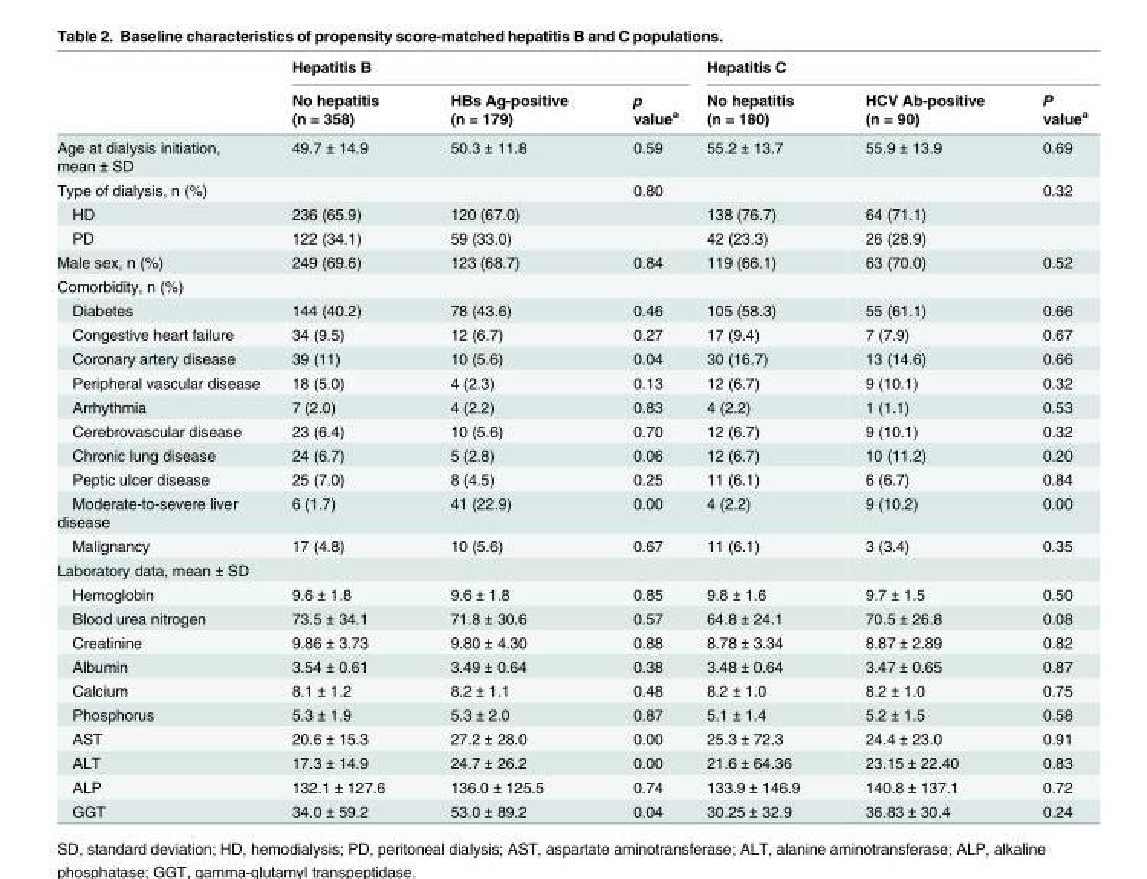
<table><thead><tr><td rowspan="2"></td><td colspan="3">Hepatitis B</td><td colspan="3">Hepatitis C</td></tr><tr><td>No hepatitis (n = 358)</td><td>HBs Ag-positive (n = 179)</td><td>p value<sup>a</sup></td><td>No hepatitis (n = 180)</td><td>HCV Ab-positive (n = 90)</td><td>P value<sup>a</sup></td></tr></thead><tbody><tr><td>Age at dialysis initiation, mean ± SD</td><td>49.7 ± 14.9</td><td>50.3 ± 11.8</td><td>0.59</td><td>55.2 ± 13.7</td><td>55.9 ± 13.9</td><td>0.69</td></tr><tr><td>Type of dialysis, n (%)</td><td></td><td></td><td>0.80</td><td></td><td></td><td>0.32</td></tr><tr><td>HD</td><td>236 (65.9)</td><td>120 (67.0)</td><td></td><td>138 (76.7)</td><td>64 (71.1)</td><td></td></tr><tr><td>PD</td><td>122 (34.1)</td><td>59 (33.0)</td><td></td><td>42 (23.3)</td><td>26 (28.9)</td><td></td></tr><tr><td>Male sex, n (%)</td><td>249 (69.6)</td><td>123 (68.7)</td><td>0.84</td><td>119 (66.1)</td><td>63 (70.0)</td><td>0.52</td></tr><tr><td colspan="7">Comorbidity, n (%)</td></tr><tr><td>Diabetes</td><td>144 (40.2)</td><td>78 (43.6)</td><td>0.46</td><td>105 (58.3)</td><td>55 (61.1)</td><td>0.66</td></tr><tr><td>Congestive heart failure</td><td>34 (9.5)</td><td>12 (6.7)</td><td>0.27</td><td>17 (9.4)</td><td>7 (7.9)</td><td>0.67</td></tr><tr><td>Coronary artery disease</td><td>39 (11)</td><td>10 (5.6)</td><td>0.04</td><td>30 (16.7)</td><td>13 (14.6)</td><td>0.66</td></tr><tr><td>Peripheral vascular disease</td><td>18 (5.0)</td><td>4 (2.3)</td><td>0.13</td><td>12 (6.7)</td><td>9 (10.1)</td><td>0.32</td></tr><tr><td>Arrhythmia</td><td>7 (2.0)</td><td>4 (2.2)</td><td>0.83</td><td>4 (2.2)</td><td>1 (1.1)</td><td>0.53</td></tr><tr><td>Cerebrovascular disease</td><td>23 (6.4)</td><td>10 (5.6)</td><td>0.70</td><td>12 (6.7)</td><td>9 (10.1)</td><td>0.32</td></tr><tr><td>Chronic lung disease</td><td>24 (6.7)</td><td>5 (2.8)</td><td>0.06</td><td>12 (6.7)</td><td>10 (11.2)</td><td>0.20</td></tr><tr><td>Peptic ulcer disease</td><td>25 (7.0)</td><td>8 (4.5)</td><td>0.25</td><td>11 (6.1)</td><td>6 (6.7)</td><td>0.84</td></tr><tr><td>Moderate-to-severe liver disease</td><td>6 (1.7)</td><td>41 (22.9)</td><td>0.00</td><td>4 (2.2)</td><td>9 (10.2)</td><td>0.00</td></tr><tr><td>Malignancy</td><td>17 (4.8)</td><td>10 (5.6)</td><td>0.67</td><td>11 (6.1)</td><td>3 (3.4)</td><td>0.35</td></tr><tr><td colspan="7">Laboratory data, mean ± SD</td></tr><tr><td>Hemoglobin</td><td>9.6 ± 1.8</td><td>9.6 ± 1.8</td><td>0.85</td><td>9.8 ± 1.6</td><td>9.7 ± 1.5</td><td>0.50</td></tr><tr><td>Blood urea nitrogen</td><td>73.5 ± 34.1</td><td>71.8 ± 30.6</td><td>0.57</td><td>64.8 ± 24.1</td><td>70.5 ± 26.8</td><td>0.08</td></tr><tr><td>Creatinine</td><td>9.86 ± 3.73</td><td>9.80 ± 4.30</td><td>0.88</td><td>8.78 ± 3.34</td><td>8.87 ± 2.89</td><td>0.82</td></tr><tr><td>Albumin</td><td>3.54 ± 0.61</td><td>3.49 ± 0.64</td><td>0.38</td><td>3.48 ± 0.64</td><td>3.47 ± 0.65</td><td>0.87</td></tr><tr><td>Calcium</td><td>8.1 ± 1.2</td><td>8.2 ± 1.1</td><td>0.48</td><td>8.2 ± 1.0</td><td>8.2 ± 1.0</td><td>0.75</td></tr><tr><td>Phosphorus</td><td>5.3 ± 1.9</td><td>5.3 ± 2.0</td><td>0.87</td><td>5.1 ± 1.4</td><td>5.2 ± 1.5</td><td>0.58</td></tr><tr><td>AST</td><td>20.6 ± 15.3</td><td>27.2 ± 28.0</td><td>0.00</td><td>25.3 ± 72.3</td><td>24.4 ± 23.0</td><td>0.91</td></tr><tr><td>ALT</td><td>17.3 ± 14.9</td><td>24.7 ± 26.2</td><td>0.00</td><td>21.6 ± 64.36</td><td>23.15 ± 22.40</td><td>0.83</td></tr><tr><td>ALP</td><td>132.1 ± 127.6</td><td>136.0 ± 125.5</td><td>0.74</td><td>133.9 ± 146.9</td><td>140.8 ± 137.1</td><td>0.72</td></tr><tr><td>GGT</td><td>34.0 ± 59.2</td><td>53.0 ± 89.2</td><td>0.04</td><td>30.25 ± 32.9</td><td>36.83 ± 30.4</td><td>0.24</td></tr></tbody></table>